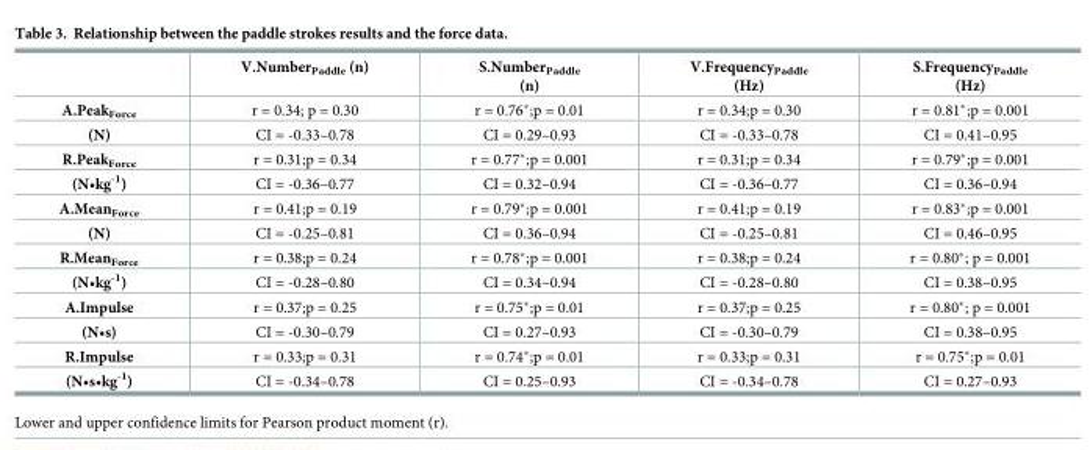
<table><thead><tr><td></td><td>V.Number<sub>Paddle</sub> (n)</td><td>S.Number<sub>Paddle</sub> (n)</td><td>V.Frequency<sub>Paddle</sub> (Hz)</td><td>S.Frequency<sub>Paddle</sub> (Hz)</td></tr></thead><tbody><tr><td>A.Peak<sub>Force</sub></td><td>r = 0.34; p = 0.30</td><td>r = 0.76*;p = 0.01</td><td>r = 0.34;p = 0.30</td><td>r = 0.81*;p = 0.001</td></tr><tr><td>(N)</td><td>CI = -0.33–0.78</td><td>CI = 0.29–0.93</td><td>CI = -0.33–0.78</td><td>CI = 0.41–0.95</td></tr><tr><td>R.Peak<sub>Force</sub></td><td>r = 0.31;p = 0.34</td><td>r = 0.77*;p = 0.001</td><td>r = 0.31;p = 0.34</td><td>r = 0.79*;p = 0.001</td></tr><tr><td>(N•kg<sup>-1</sup>)</td><td>CI = -0.36–0.77</td><td>CI = 0.32–0.94</td><td>CI = -0.36–0.77</td><td>CI = 0.36–0.94</td></tr><tr><td>A.Mean<sub>Force</sub></td><td>r = 0.41;p = 0.19</td><td>r = 0.79*;p = 0.001</td><td>r = 0.41;p = 0.19</td><td>r = 0.83*;p = 0.001</td></tr><tr><td>(N)</td><td>CI = -0.25–0.81</td><td>CI = 0.36–0.94</td><td>CI = -0.25–0.81</td><td>CI = 0.46–0.95</td></tr><tr><td>R.Mean<sub>Force</sub></td><td>r = 0.38;p = 0.24</td><td>r = 0.78*;p = 0.001</td><td>r = 0.38;p = 0.24</td><td>r = 0.80*; p = 0.001</td></tr><tr><td>(N•kg<sup>-1</sup>)</td><td>CI = -0.28–0.80</td><td>CI = 0.34–0.94</td><td>CI = -0.28–0.80</td><td>CI = 0.38–0.95</td></tr><tr><td>A.Impulse</td><td>r = 0.37;p = 0.25</td><td>r = 0.75*;p = 0.01</td><td>r = 0.37;p = 0.25</td><td>r = 0.80*; p = 0.001</td></tr><tr><td>(N•s)</td><td>CI = -0.30–0.79</td><td>CI = 0.27–0.93</td><td>CI = -0.30–0.79</td><td>CI = 0.38–0.95</td></tr><tr><td>R.Impulse</td><td>r = 0.33;p = 0.31</td><td>r = 0.74*;p = 0.01</td><td>r = 0.33;p = 0.31</td><td>r = 0.75*;p = 0.01</td></tr><tr><td>(N•s•kg<sup>-1</sup>)</td><td>CI = -0.34–0.78</td><td>CI = 0.25–0.93</td><td>CI = -0.34–0.78</td><td>CI = 0.27–0.93</td></tr></tbody></table>